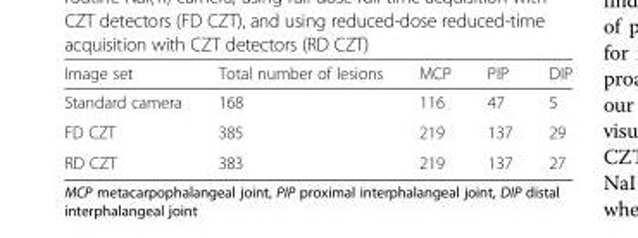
<table><thead><tr><td>Image set</td><td>Total number of lesions</td><td>MCP</td><td>PIP</td><td>DIP</td></tr></thead><tbody><tr><td>Standard camera</td><td>168</td><td>116</td><td>47</td><td>5</td></tr><tr><td>FD CZT</td><td>385</td><td>219</td><td>137</td><td>29</td></tr><tr><td>RD CZT</td><td>383</td><td>219</td><td>137</td><td>27</td></tr></tbody></table>